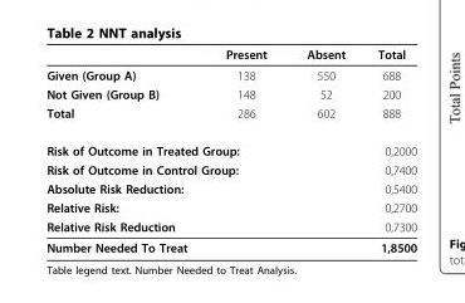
<table><thead><tr><td></td><td>Present</td><td>Absent</td><td>Total</td></tr></thead><tbody><tr><td>Given (Group A)</td><td>138</td><td>550</td><td>688</td></tr><tr><td>Not Given (Group B)</td><td>148</td><td>52</td><td>200</td></tr><tr><td>Total</td><td>286</td><td>602</td><td>888</td></tr><tr><td colspan="2">Risk of Outcome in Treated Group:</td><td colspan="2">0,2000</td></tr><tr><td colspan="2">Risk of Outcome in Control Group:</td><td colspan="2">0,7400</td></tr><tr><td colspan="2">Absolute Risk Reduction:</td><td colspan="2">0,5400</td></tr><tr><td colspan="2">Relative Risk:</td><td colspan="2">0,2700</td></tr><tr><td colspan="2">Relative Risk Reduction</td><td colspan="2">0,7300</td></tr><tr><td colspan="2">Number Needed To Treat</td><td colspan="2">1,8500</td></tr></tbody></table>